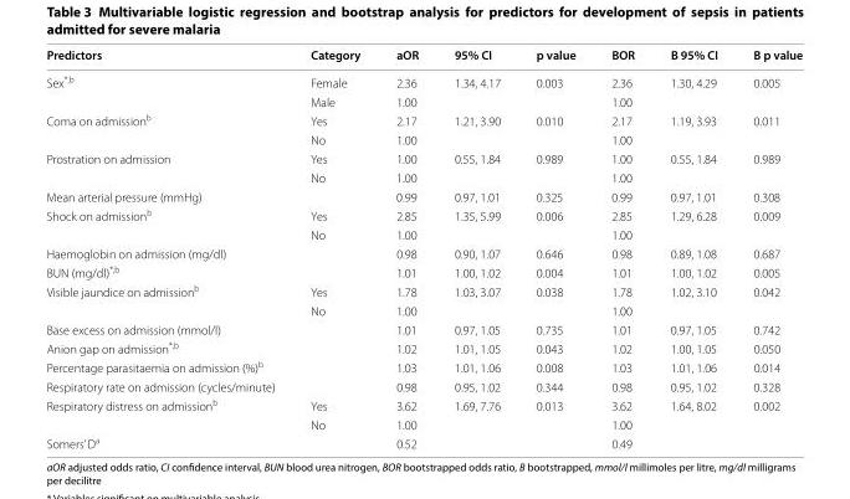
<table><thead><tr><td>Predictors</td><td>Category</td><td>aOR</td><td>95% CI</td><td>p value</td><td>BOR</td><td>B 95% CI</td><td>B p value</td></tr></thead><tbody><tr><td rowspan="2">Sex<sup>*,b</sup></td><td>Female</td><td>2.36</td><td>1.34, 4.17</td><td>0.003</td><td>2.36</td><td>1.30, 4.29</td><td>0.005</td></tr><tr><td>Male</td><td>1.00</td><td></td><td></td><td>1.00</td><td></td><td></td></tr><tr><td rowspan="2">Coma on admission<sup>b</sup></td><td>Yes</td><td>2.17</td><td>1.21, 3.90</td><td>0.010</td><td>2.17</td><td>1.19, 3.93</td><td>0.011</td></tr><tr><td>No</td><td>1.00</td><td></td><td></td><td>1.00</td><td></td><td></td></tr><tr><td rowspan="2">Prostration on admission</td><td>Yes</td><td>1.00</td><td>0.55, 1.84</td><td>0.989</td><td>1.00</td><td>0.55, 1.84</td><td>0.989</td></tr><tr><td>No</td><td>1.00</td><td></td><td></td><td>1.00</td><td></td><td></td></tr><tr><td>Mean arterial pressure (mmHg)</td><td></td><td>0.99</td><td>0.97, 1.01</td><td>0.325</td><td>0.99</td><td>0.97, 1.01</td><td>0.308</td></tr><tr><td rowspan="2">Shock on admission<sup>b</sup></td><td>Yes</td><td>2.85</td><td>1.35, 5.99</td><td>0.006</td><td>2.85</td><td>1.29, 6.28</td><td>0.009</td></tr><tr><td>No</td><td>1.00</td><td></td><td></td><td>1.00</td><td></td><td></td></tr><tr><td>Haemoglobin on admission (mg/dl)</td><td></td><td>0.98</td><td>0.90, 1.07</td><td>0.646</td><td>0.98</td><td>0.89, 1.08</td><td>0.687</td></tr><tr><td>BUN (mg/dl)<sup>*,b</sup></td><td></td><td>1.01</td><td>1.00, 1.02</td><td>0.004</td><td>1.01</td><td>1.00, 1.02</td><td>0.005</td></tr><tr><td rowspan="2">Visible jaundice on admission<sup>b</sup></td><td>Yes</td><td>1.78</td><td>1.03, 3.07</td><td>0.038</td><td>1.78</td><td>1.02, 3.10</td><td>0.042</td></tr><tr><td>No</td><td>1.00</td><td></td><td></td><td>1.00</td><td></td><td></td></tr><tr><td>Base excess on admission (mmol/l)</td><td></td><td>1.01</td><td>0.97, 1.05</td><td>0.735</td><td>1.01</td><td>0.97, 1.05</td><td>0.742</td></tr><tr><td>Anion gap on admission<sup>*,b</sup></td><td></td><td>1.02</td><td>1.01, 1.05</td><td>0.043</td><td>1.02</td><td>1.00, 1.05</td><td>0.050</td></tr><tr><td>Percentage parasitaemia on admission (%)<sup>b</sup></td><td></td><td>1.03</td><td>1.01, 1.06</td><td>0.008</td><td>1.03</td><td>1.01, 1.06</td><td>0.014</td></tr><tr><td>Respiratory rate on admission (cycles/minute)</td><td></td><td>0.98</td><td>0.95, 1.02</td><td>0.344</td><td>0.98</td><td>0.95, 1.02</td><td>0.328</td></tr><tr><td rowspan="2">Respiratory distress on admission<sup>b</sup></td><td>Yes</td><td>3.62</td><td>1.69, 7.76</td><td>0.013</td><td>3.62</td><td>1.64, 8.02</td><td>0.002</td></tr><tr><td>No</td><td>1.00</td><td></td><td></td><td>1.00</td><td></td><td></td></tr><tr><td>Somers’ D<sup>a</sup></td><td></td><td>0.52</td><td></td><td></td><td>0.49</td><td></td><td></td></tr></tbody></table>